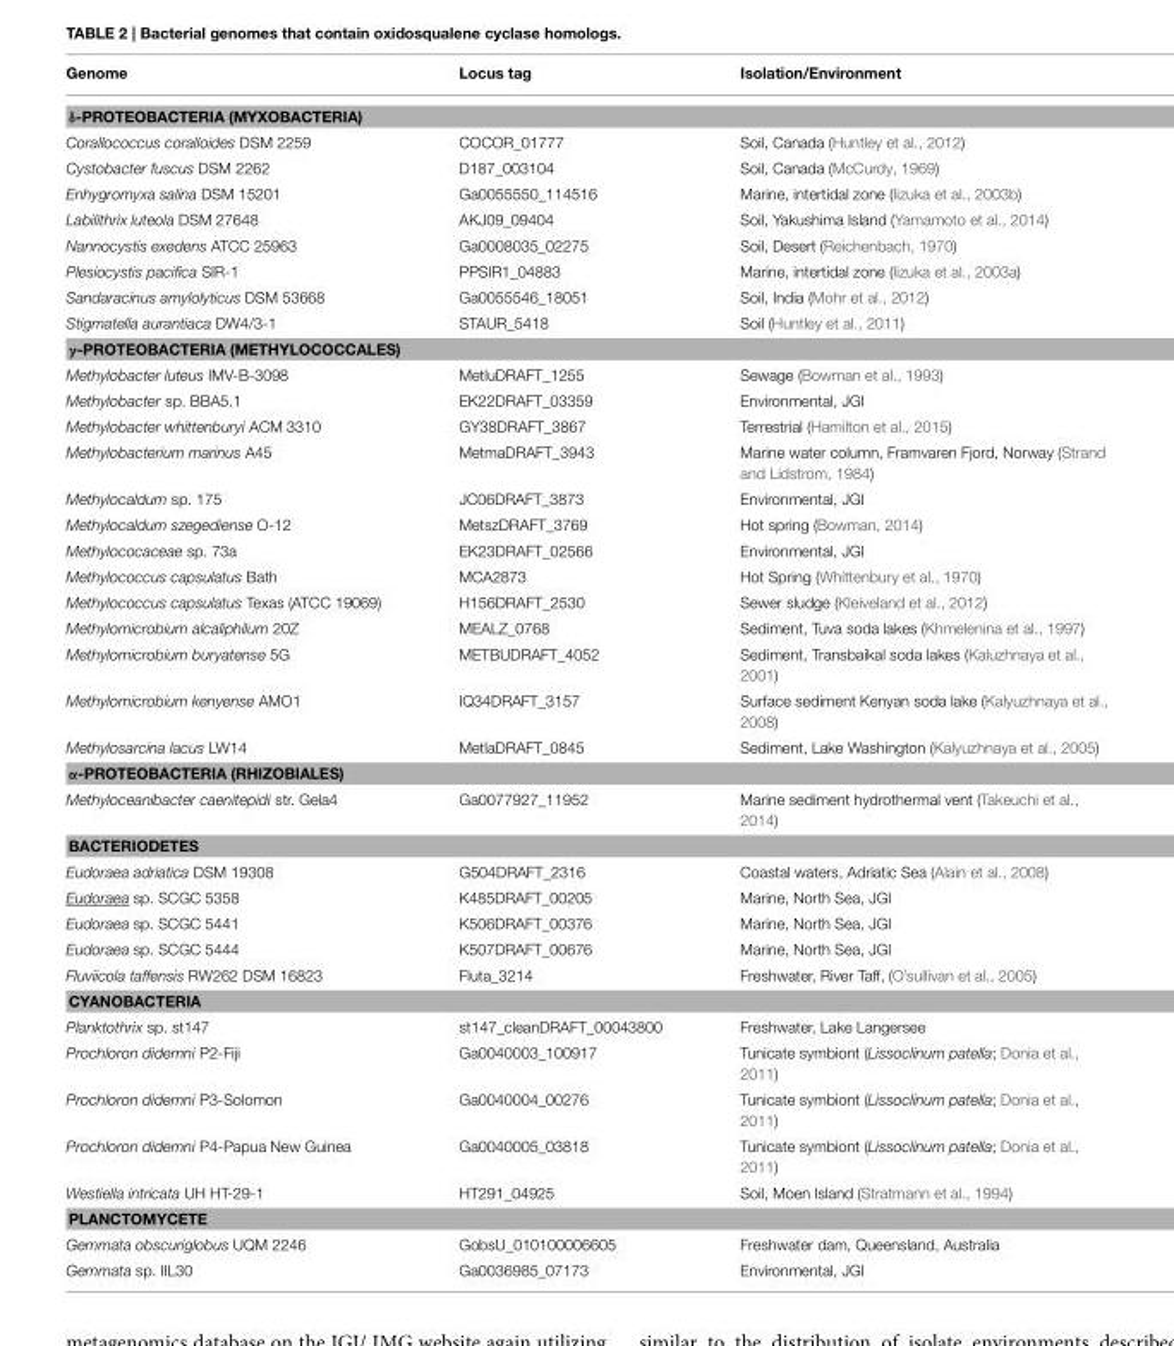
<table><thead><tr><td>Genome</td><td>Locus tag</td><td>Isolation/Environment</td></tr></thead><tbody><tr><td colspan="3">δ-PROTEOBACTERIA (MYXOBACTERIA)</td></tr><tr><td>Corallococcus coralloides DSM 2259</td><td>COCOR_01777</td><td>Soil, Canada (Huntley et al., 2012)</td></tr><tr><td>Cystobacter fuscus DSM 2262</td><td>D187_003104</td><td>Soil, Canada (McCurdy, 1969)</td></tr><tr><td>Enhygromyxa salina DSM 15201</td><td>Ga0055550_114516</td><td>Marine, intertidal zone (Iizuka et al., 2003b)</td></tr><tr><td>Labilithrix luteola DSM 27648</td><td>AKJ09_09404</td><td>Soil, Yakushima Island (Yamamoto et al., 2014)</td></tr><tr><td>Nannocystis exedens ATCC 25963</td><td>Ga0008035_02275</td><td>Soil, Desert (Reichenbach, 1970)</td></tr><tr><td>Plesiocystis pacifica SIR-1</td><td>PPSIR1_04883</td><td>Marine, intertidal zone (Iizuka et al., 2003a)</td></tr><tr><td>Sandaracinus amylolyticus DSM 53668</td><td>Ga0055546_18051</td><td>Soil, India (Mohr et al., 2012)</td></tr><tr><td>Stigmatella aurantiaca DW4/3-1</td><td>STAUR_5418</td><td>Soil (Huntley et al., 2011)</td></tr><tr><td colspan="3">γ-PROTEOBACTERIA (METHYLOCOCCALES)</td></tr><tr><td>Methylobacter luteus IMV-B-3098</td><td>MetluDRAFT_1255</td><td>Sewage (Bowman et al., 1993)</td></tr><tr><td>Methylobacter sp. BBA5.1</td><td>EK22DRAFT_03359</td><td>Environmental, JGI</td></tr><tr><td>Methylobacter whittenburyi ACM 3310</td><td>GY38DRAFT_3867</td><td>Terrestrial (Hamilton et al., 2015)</td></tr><tr><td>Methylobacterium marinus A45</td><td>MetmaDRAFT_3943</td><td>Marine water column, Framvaren Fjord, Norway (Strand and Lidstrom, 1984)</td></tr><tr><td>Methylocaldum sp. 175</td><td>JC06DRAFT_3873</td><td>Environmental, JGI</td></tr><tr><td>Methylocaldum szegediense O-12</td><td>MetszDRAFT_3769</td><td>Hot spring (Bowman, 2014)</td></tr><tr><td>Methylococaceae sp. 73a</td><td>EK23DRAFT_02566</td><td>Environmental, JGI</td></tr><tr><td>Methylococcus capsulatus Bath</td><td>MCA2873</td><td>Hot Spring (Whittenbury et al., 1970)</td></tr><tr><td>Methylococcus capsulatus Texas (ATCC 19069)</td><td>H156DRAFT_2530</td><td>Sewer sludge (Kleiveland et al., 2012)</td></tr><tr><td>Methylomicrobium alcaliphilum 20Z</td><td>MEALZ_0768</td><td>Sediment, Tuva soda lakes (Khmelenina et al., 1997)</td></tr><tr><td>Methylomicrobium buryatense 5G</td><td>METBUDRAFT_4052</td><td>Sediment, Transbaikal soda lakes (Kaluzhnaya et al., 2001)</td></tr><tr><td>Methylomicrobium kenyense AMO1</td><td>IQ34DRAFT_3157</td><td>Surface sediment Kenyan soda lake (Kalyuzhnaya et al., 2008)</td></tr><tr><td>Methylosarcina lacus LW14</td><td>MetlaDRAFT_0845</td><td>Sediment, Lake Washington (Kalyuzhnaya et al., 2005)</td></tr><tr><td colspan="3">α-PROTEOBACTERIA (RHIZOBIALES)</td></tr><tr><td>Methyloceanibacter caenitepidi str. Gela4</td><td>Ga0077927_11952</td><td>Marine sediment hydrothermal vent (Takeuchi et al., 2014)</td></tr><tr><td colspan="3">BACTERIODETES</td></tr><tr><td>Eudoraea adriatica DSM 19308</td><td>G504DRAFT_2316</td><td>Coastal waters, Adriatic Sea (Alain et al., 2008)</td></tr><tr><td>Eudoraea sp. SCGC 5358</td><td>K485DRAFT_00205</td><td>Marine, North Sea, JGI</td></tr><tr><td>Eudoraea sp. SCGC 5441</td><td>K506DRAFT_00376</td><td>Marine, North Sea, JGI</td></tr><tr><td>Eudoraea sp. SCGC 5444</td><td>K507DRAFT_00676</td><td>Marine, North Sea, JGI</td></tr><tr><td>Fluviicola taffensis RW262 DSM 16823</td><td>Fluta_3214</td><td>Freshwater, River Taff, (O’sullivan et al., 2005)</td></tr><tr><td colspan="3">CYANOBACTERIA</td></tr><tr><td>Planktothrix sp. st147</td><td>st147_cleanDRAFT_00043800</td><td>Freshwater, Lake Langersee</td></tr><tr><td>Prochloron didemni P2-Fiji</td><td>Ga0040003_100917</td><td>Tunicate symbiont (Lissoclinum patella; Donia et al., 2011)</td></tr><tr><td>Prochloron didemni P3-Solomon</td><td>Ga0040004_00276</td><td>Tunicate symbiont (Lissoclinum patella; Donia et al., 2011)</td></tr><tr><td>Prochloron didemni P4-Papua New Guinea</td><td>Ga0040005_03818</td><td>Tunicate symbiont (Lissoclinum patella; Donia et al., 2011)</td></tr><tr><td>Westiella intricata UH HT-29-1</td><td>HT291_04925</td><td>Soil, Moen Island (Stratmann et al., 1994)</td></tr><tr><td colspan="3">PLANCTOMYCETE</td></tr><tr><td>Gemmata obscuriglobus UQM 2246</td><td>GobsU_010100006605</td><td>Freshwater dam, Queensland, Australia</td></tr><tr><td>Gemmata sp. IIL30</td><td>Ga0036985_07173</td><td>Environmental, JGI</td></tr></tbody></table>